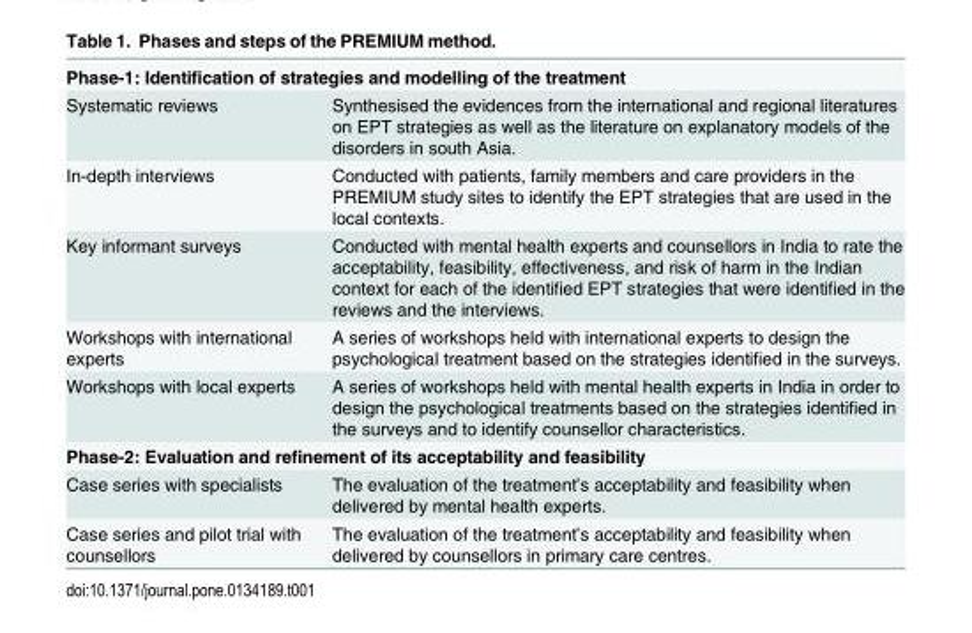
<table><tbody><tr><td colspan="2">Phase-1: Identification of strategies and modelling of the treatment</td></tr><tr><td>Systematic reviews</td><td>Synthesised the evidences from the international and regional literatures on EPT strategies as well as the literature on explanatory models of the disorders in south Asia.</td></tr><tr><td>In-depth interviews</td><td>Conducted with patients, family members and care providers in the PREMIUM study sites to identify the EPT strategies that are used in the local contexts.</td></tr><tr><td>Key informant surveys</td><td>Conducted with mental health experts and counsellors in India to rate the acceptability, feasibility, effectiveness, and risk of harm in the Indian context for each of the identified EPT strategies that were identified in the reviews and the interviews.</td></tr><tr><td>Workshops with international experts</td><td>A series of workshops held with international experts to design the psychological treatment based on the strategies identified in the surveys.</td></tr><tr><td>Workshops with local experts</td><td>A series of workshops held with mental health experts in India in order to design the psychological treatments based on the strategies identified in the surveys and to identify counsellor characteristics.</td></tr><tr><td colspan="2">Phase-2: Evaluation and refinement of its acceptability and feasibility</td></tr><tr><td>Case series with specialists</td><td>The evaluation of the treatment’s acceptability and feasibility when delivered by mental health experts.</td></tr><tr><td>Case series and pilot trial with counsellors</td><td>The evaluation of the treatment’s acceptability and feasibility when delivered by counsellors in primary care centres.</td></tr></tbody></table>